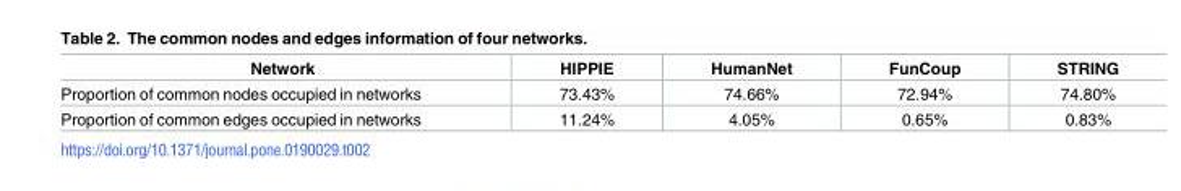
<table><thead><tr><td>Network</td><td>HIPPIE</td><td>HumanNet</td><td>FunCoup</td><td>STRING</td></tr></thead><tbody><tr><td>Proportion of common nodes occupied in networks</td><td>73.43%</td><td>74.66%</td><td>72.94%</td><td>74.80%</td></tr><tr><td>Proportion of common edges occupied in networks</td><td>11.24%</td><td>4.05%</td><td>0.65%</td><td>0.83%</td></tr></tbody></table>